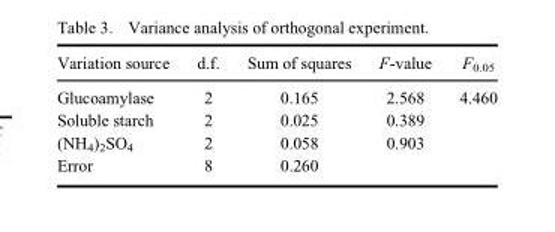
<table><thead><tr><td>Variation source</td><td>d.f.</td><td>Sum of squares</td><td>F-value</td><td>F<sub>0.05</sub></td></tr></thead><tbody><tr><td>Glucoamylase</td><td>2</td><td>0.165</td><td>2.568</td><td>4.460</td></tr><tr><td>Soluble starch</td><td>2</td><td>0.025</td><td>0.389</td><td></td></tr><tr><td>(NH<sub>4</sub>)<sub>2</sub>SO<sub>4</sub></td><td>2</td><td>0.058</td><td>0.903</td><td></td></tr><tr><td>Error</td><td>8</td><td>0.260</td><td></td><td></td></tr></tbody></table>